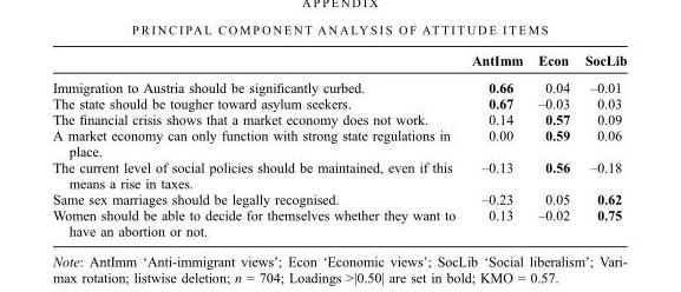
<table><thead><tr><td></td><td>AntImm</td><td>Econ</td><td>SocLib</td></tr></thead><tbody><tr><td>Immigration to Austria should be significantly curbed.</td><td>0.66</td><td>0.04</td><td>–0.01</td></tr><tr><td>The state should be tougher toward asylum seekers.</td><td>0.67</td><td>–0.03</td><td>0.03</td></tr><tr><td>The financial crisis shows that a market economy does not work.</td><td>0.14</td><td>0.57</td><td>0.09</td></tr><tr><td>A market economy can only function with strong state regulations in place.</td><td>0.00</td><td>0.59</td><td>0.06</td></tr><tr><td>The current level of social policies should be maintained, even if this means a rise in taxes.</td><td>–0.13</td><td>0.56</td><td>–0.18</td></tr><tr><td>Same sex marriages should be legally recognised.</td><td>–0.23</td><td>0.05</td><td>0.62</td></tr><tr><td>Women should be able to decide for themselves whether they want to have an abortion or not.</td><td>0.13</td><td>–0.02</td><td>0.75</td></tr></tbody></table>